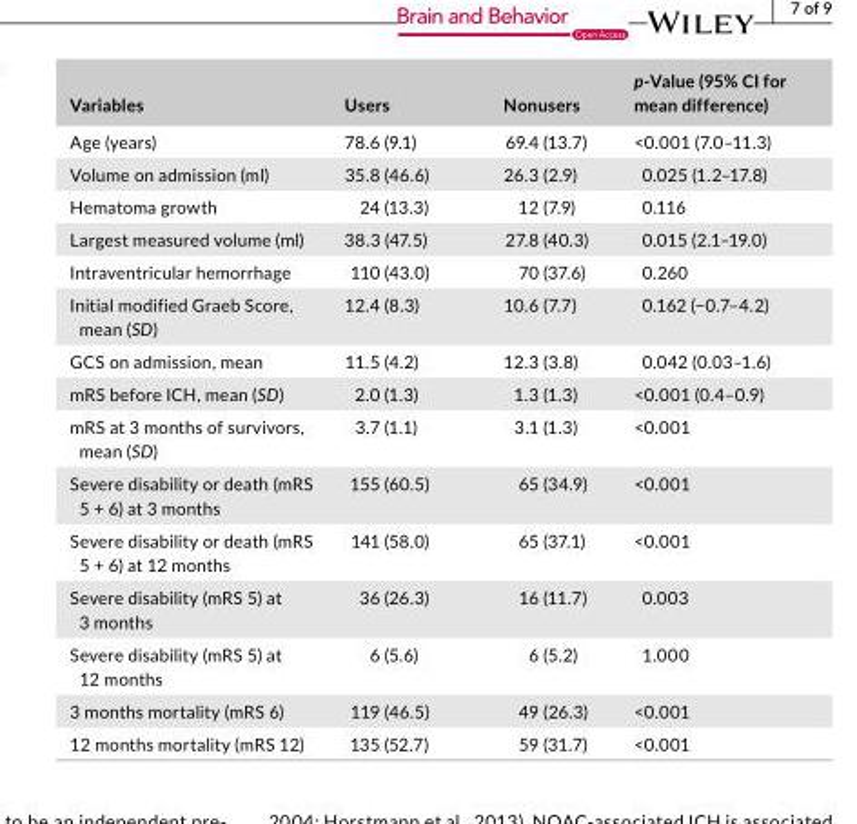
<table><thead><tr><td>Variables</td><td>Users</td><td>Nonusers</td><td>p‐Value (95% CI for mean difference)</td></tr></thead><tbody><tr><td>Age (years)</td><td>78.6 (9.1)</td><td>69.4 (13.7)</td><td>&lt;0.001 (7.0–11.3)</td></tr><tr><td>Volume on admission (ml)</td><td>35.8 (46.6)</td><td>26.3 (2.9)</td><td>0.025 (1.2–17.8)</td></tr><tr><td>Hematoma growth</td><td>24 (13.3)</td><td>12 (7.9)</td><td>0.116</td></tr><tr><td>Largest measured volume (ml)</td><td>38.3 (47.5)</td><td>27.8 (40.3)</td><td>0.015 (2.1–19.0)</td></tr><tr><td>Intraventricular hemorrhage</td><td>110 (43.0)</td><td>70 (37.6)</td><td>0.260</td></tr><tr><td>Initial modified Graeb Score, mean (SD)</td><td>12.4 (8.3)</td><td>10.6 (7.7)</td><td>0.162 (−0.7–4.2)</td></tr><tr><td>GCS on admission, mean</td><td>11.5 (4.2)</td><td>12.3 (3.8)</td><td>0.042 (0.03–1.6)</td></tr><tr><td>mRS before ICH, mean (SD)</td><td>2.0 (1.3)</td><td>1.3 (1.3)</td><td>&lt;0.001 (0.4–0.9)</td></tr><tr><td>mRS at 3 months of survivors, mean (SD)</td><td>3.7 (1.1)</td><td>3.1 (1.3)</td><td>&lt;0.001</td></tr><tr><td>Severe disability or death (mRS 5 + 6) at 3 months</td><td>155 (60.5)</td><td>65 (34.9)</td><td>&lt;0.001</td></tr><tr><td>Severe disability or death (mRS 5 + 6) at 12 months</td><td>141 (58.0)</td><td>65 (37.1)</td><td>&lt;0.001</td></tr><tr><td>Severe disability (mRS 5) at 3 months</td><td>36 (26.3)</td><td>16 (11.7)</td><td>0.003</td></tr><tr><td>Severe disability (mRS 5) at 12 months</td><td>6 (5.6)</td><td>6 (5.2)</td><td>1.000</td></tr><tr><td>3 months mortality (mRS 6)</td><td>119 (46.5)</td><td>49 (26.3)</td><td>&lt;0.001</td></tr><tr><td>12 months mortality (mRS 12)</td><td>135 (52.7)</td><td>59 (31.7)</td><td>&lt;0.001</td></tr></tbody></table>